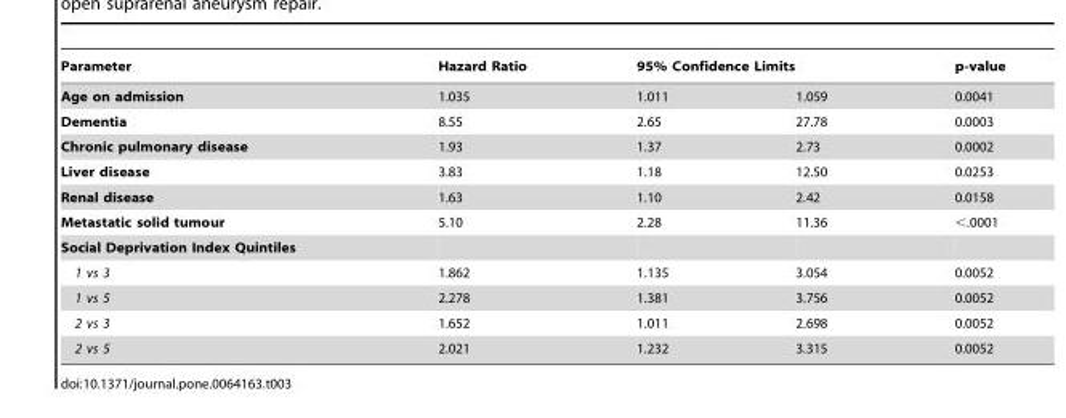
<table><thead><tr><td rowspan="2">Parameter Age on admission</td><td rowspan="2">Hazard Ratio 1.035</td><td colspan="2">95% Confidence Limits</td><td rowspan="2">p-value 0.0041</td></tr><tr><td>1.011</td><td>1.059</td></tr></thead><tbody><tr><td>Dementia</td><td>8.55</td><td>2.65</td><td>27.78</td><td>0.0003</td></tr><tr><td>Chronic pulmonary disease</td><td>1.93</td><td>1.37</td><td>2.73</td><td>0.0002</td></tr><tr><td>Liver disease</td><td>3.83</td><td>1.18</td><td>12.50</td><td>0.0253</td></tr><tr><td>Renal disease</td><td>1.63</td><td>1.10</td><td>2.42</td><td>0.0158</td></tr><tr><td>Metastatic solid tumour</td><td>5.10</td><td>2.28</td><td>11.36</td><td>&lt;.0001</td></tr><tr><td colspan="5">Social Deprivation Index Quintiles</td></tr><tr><td>1 vs 3</td><td>1.862</td><td>1.135</td><td>3.054</td><td>0.0052</td></tr><tr><td>1 vs 5</td><td>2.278</td><td>1.381</td><td>3.756</td><td>0.0052</td></tr><tr><td>2 vs 3</td><td>1.652</td><td>1.011</td><td>2.698</td><td>0.0052</td></tr><tr><td>2 vs 5</td><td>2.021</td><td>1.232</td><td>3.315</td><td>0.0052</td></tr></tbody></table>